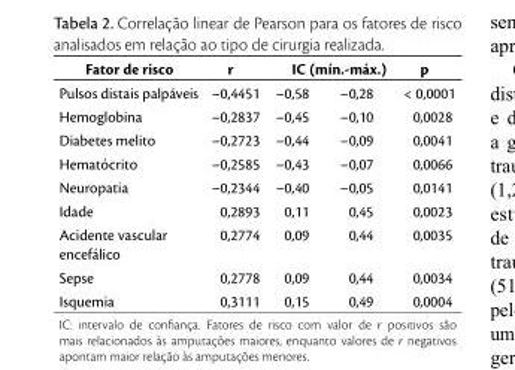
<table><thead><tr><td rowspan="2">Fator de risco Pulsos distais palpáveis</td><td rowspan="2">r –0,4451</td><td colspan="2">IC (mín.-máx.)</td><td rowspan="2">p &lt; 0,0001</td></tr><tr><td>–0,58</td><td>–0,28</td></tr></thead><tbody><tr><td>Hemoglobina</td><td>–0,2837</td><td>–0,45</td><td>–0,10</td><td>0,0028</td></tr><tr><td>Diabetes melito</td><td>–0,2723</td><td>–0,44</td><td>–0,09</td><td>0,0041</td></tr><tr><td>Hematócrito</td><td>–0,2585</td><td>–0,43</td><td>–0,07</td><td>0,0066</td></tr><tr><td>Neuropatia</td><td>–0,2344</td><td>–0,40</td><td>–0,05</td><td>0,0141</td></tr><tr><td>Idade</td><td>0,2893</td><td>0,11</td><td>0,45</td><td>0,0023</td></tr><tr><td>Acidente vascular encefálico</td><td>0,2774</td><td>0,09</td><td>0,44</td><td>0,0035</td></tr><tr><td>Sepse</td><td>0,2778</td><td>0,09</td><td>0,44</td><td>0,0034</td></tr><tr><td>Isquemia</td><td>0,3111</td><td>0,15</td><td>0,49</td><td>0,0004</td></tr></tbody></table>